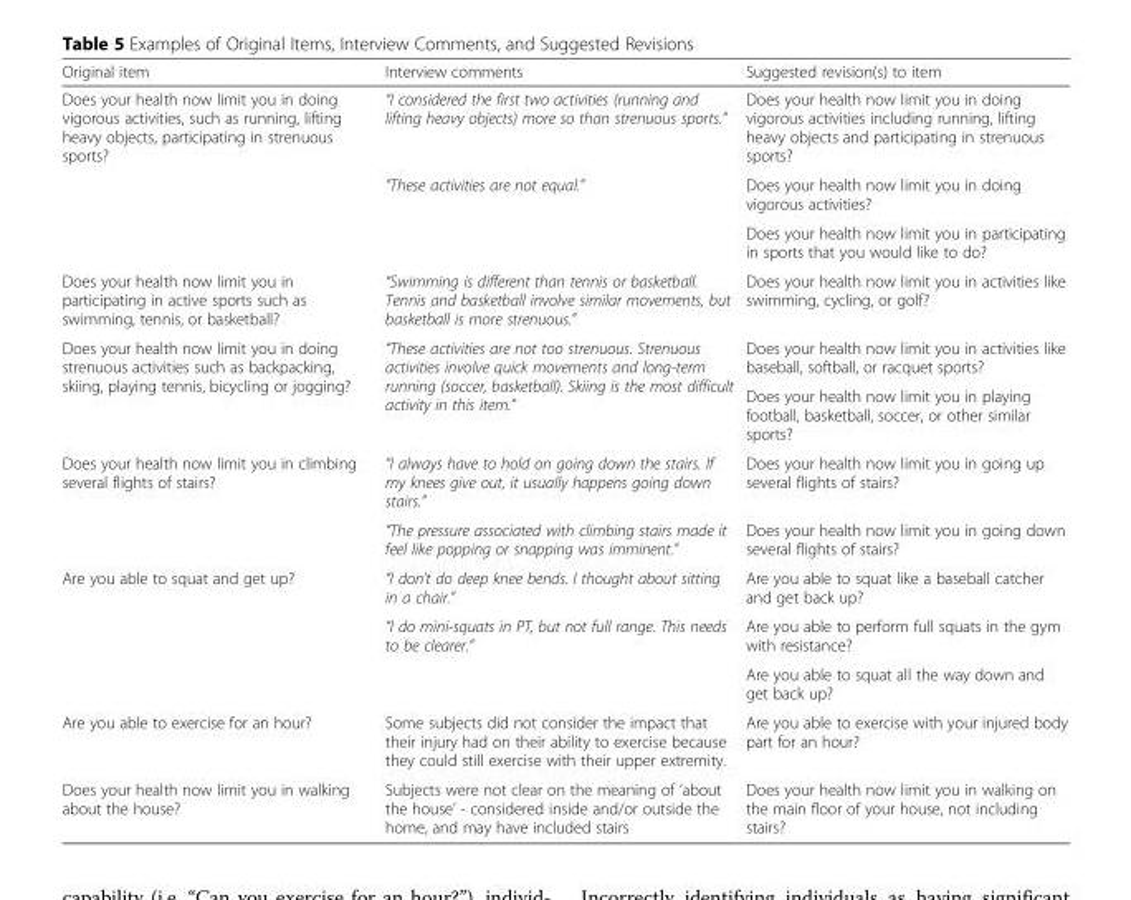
<table><thead><tr><td>Original item</td><td>Interview comments</td><td>Suggested revision(s) to item</td></tr></thead><tbody><tr><td rowspan="3">Does your health now limit you in doing vigorous activities, such as running, lifting heavy objects, participating in strenuous sports?</td><td>“I considered the first two activities (running and lifting heavy objects) more so than strenuous sports.”</td><td>Does your health now limit you in doing vigorous activities including running, lifting heavy objects and participating in strenuous sports?</td></tr><tr><td rowspan="2">“These activities are not equal.”</td><td>Does your health now limit you in doing vigorous activities?</td></tr><tr><td>Does your health now limit you in participating in sports that you would like to do?</td></tr><tr><td>Does your health now limit you in participating in active sports such as swimming, tennis, or basketball?</td><td>“Swimming is different than tennis or basketball. Tennis and basketball involve similar movements, but basketball is more strenuous.”</td><td>Does your health now limit you in activities like swimming, cycling, or golf?</td></tr><tr><td rowspan="2">Does your health now limit you in doing strenuous activities such as backpacking, skiing, playing tennis, bicycling or jogging?</td><td rowspan="2">“These activities are not too strenuous. Strenuous activities involve quick movements and long-term running (soccer, basketball). Skiing is the most difficult activity in this item.”</td><td>Does your health now limit you in activities like baseball, softball, or racquet sports?</td></tr><tr><td>Does your health now limit you in playing football, basketball, soccer, or other similar sports?</td></tr><tr><td rowspan="2">Does your health now limit you in climbing several flights of stairs?</td><td>“I always have to hold on going down the stairs. If my knees give out, it usually happens going down stairs.”</td><td>Does your health now limit you in going up several flights of stairs?</td></tr><tr><td>“The pressure associated with climbing stairs made it feel like popping or snapping was imminent.”</td><td>Does your health now limit you in going down several flights of stairs?</td></tr><tr><td rowspan="3">Are you able to squat and get up?</td><td>“I don’t do deep knee bends. I thought about sitting in a chair.”</td><td>Are you able to squat like a baseball catcher and get back up?</td></tr><tr><td rowspan="2">“I do mini-squats in PT, but not full range. This needs to be clearer.”</td><td>Are you able to perform full squats in the gym with resistance?</td></tr><tr><td>Are you able to squat all the way down and get back up?</td></tr><tr><td>Are you able to exercise for an hour?</td><td>Some subjects did not consider the impact that their injury had on their ability to exercise because they could still exercise with their upper extremity.</td><td>Are you able to exercise with your injured body part for an hour?</td></tr><tr><td>Does your health now limit you in walking about the house?</td><td>Subjects were not clear on the meaning of ‘about the house’ - considered inside and/or outside the home, and may have included stairs</td><td>Does your health now limit you in walking on the main floor of your house, not including stairs?</td></tr></tbody></table>